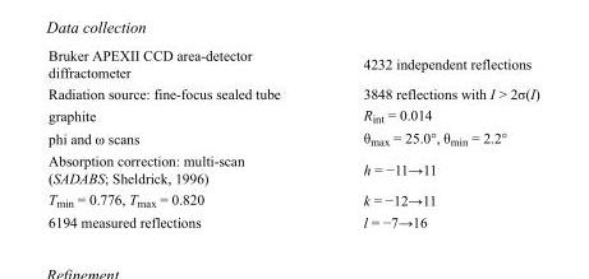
<table><tbody><tr><td>Bruker APEXII CCD area-detector diffractometer</td><td>4232 independent reflections</td></tr><tr><td>Radiation source: fine-focus sealed tube</td><td>3848 reflections with I &gt; 2σ(I)</td></tr><tr><td>graphite</td><td>R<sub>int</sub> = 0.014</td></tr><tr><td>phi and ω scans</td><td>θ<sub>max</sub> = 25.0°, θ<sub>min</sub> = 2.2°</td></tr><tr><td>Absorption correction: multi-scan (SADABS; Sheldrick, 1996)</td><td>h = −11→11</td></tr><tr><td>T<sub>min</sub> = 0.776, T<sub>max</sub> = 0.820</td><td>k = −12→11</td></tr><tr><td>6194 measured reflections</td><td>l = −7→16</td></tr></tbody></table>